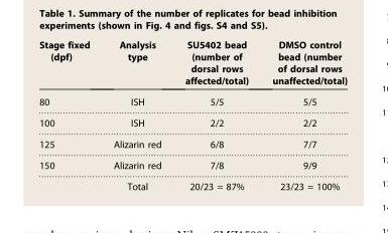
<table><thead><tr><td>Stage fixed (dpf)</td><td>Analysis type</td><td>SU5402 bead (number of dorsal rows affected/total)</td><td>DMSO control bead (number of dorsal rows unaffected/total)</td></tr></thead><tbody><tr><td>80</td><td>ISH</td><td>5/5</td><td>5/5</td></tr><tr><td>100</td><td>ISH</td><td>2/2</td><td>2/2</td></tr><tr><td>125</td><td>Alizarin red</td><td>6/8</td><td>7/7</td></tr><tr><td rowspan="2">150</td><td>Alizarin red</td><td>7/8</td><td>9/9</td></tr><tr><td>Total</td><td>20/23 = 87%</td><td>23/23 = 100%</td></tr></tbody></table>